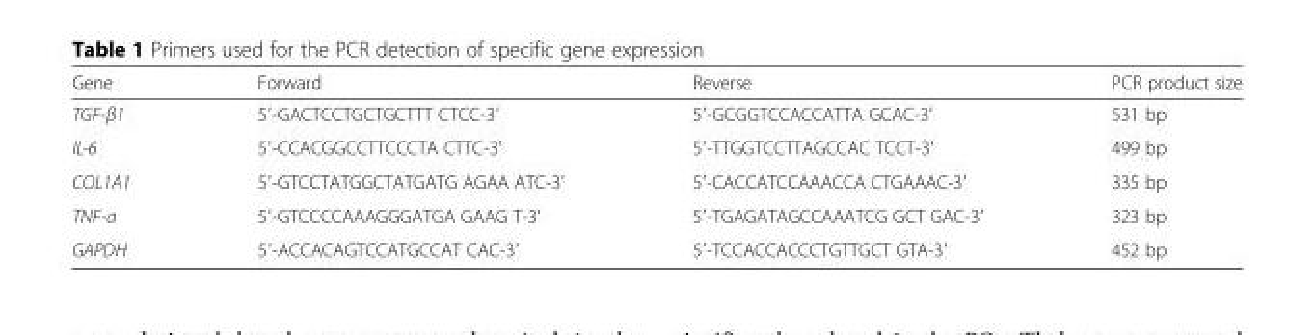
<table><thead><tr><td>Gene</td><td>Forward</td><td>Reverse</td><td>PCR product size</td></tr></thead><tbody><tr><td>TGF-β1</td><td>5′-GACTCCTGCTGCTTT CTCC-3′</td><td>5′-GCGGTCCACCATTA GCAC-3′</td><td>531 bp</td></tr><tr><td>IL-6</td><td>5′-CCACGGCCTTCCCTA CTTC-3′</td><td>5′-TTGGTCCTTAGCCAC TCCT-3′</td><td>499 bp</td></tr><tr><td>COL1A1</td><td>5′-GTCCTATGGCTATGATG AGAA ATC-3′</td><td>5′-CACCATCCAAACCA CTGAAAC-3′</td><td>335 bp</td></tr><tr><td>TNF-a</td><td>5′-GTCCCCAAAGGGATGA GAAG T-3′</td><td>5′-TGAGATAGCCAAATCG GCT GAC-3′</td><td>323 bp</td></tr><tr><td>GAPDH</td><td>5′-ACCACAGTCCATGCCAT CAC-3′</td><td>5′-TCCACCACCCTGTTGCT GTA-3′</td><td>452 bp</td></tr></tbody></table>